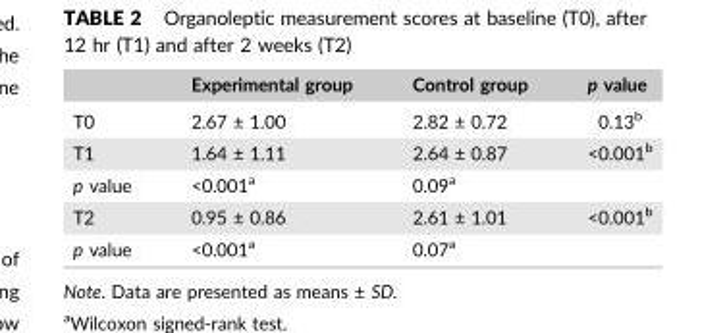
<table><thead><tr><td></td><td>Experimental group</td><td>Control group</td><td>p value</td></tr></thead><tbody><tr><td>T0</td><td>2.67 ± 1.00</td><td>2.82 ± 0.72</td><td>0.13<sup>b</sup></td></tr><tr><td>T1</td><td>1.64 ± 1.11</td><td>2.64 ± 0.87</td><td>&lt;0.001<sup>b</sup></td></tr><tr><td>p value</td><td>&lt;0.001<sup>a</sup></td><td>0.09<sup>a</sup></td><td></td></tr><tr><td>T2</td><td>0.95 ± 0.86</td><td>2.61 ± 1.01</td><td>&lt;0.001<sup>b</sup></td></tr><tr><td>p value</td><td>&lt;0.001<sup>a</sup></td><td>0.07<sup>a</sup></td><td></td></tr></tbody></table>